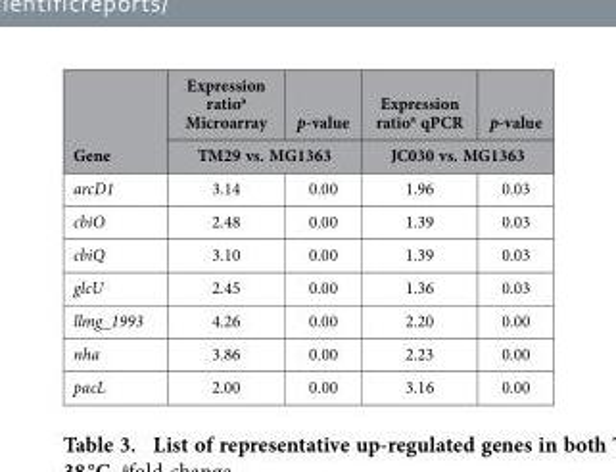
<table><thead><tr><td rowspan="2">Gene</td><td>Expression ratio<sup>a</sup> Microarray</td><td>p-value</td><td>Expression ratio<sup>a</sup> qPCR</td><td>p-value</td></tr><tr><td colspan="2">TM29 vs. MG1363</td><td colspan="2">JC030 vs. MG1363</td></tr></thead><tbody><tr><td>arcD1</td><td>3.14</td><td>0.00</td><td>1.96</td><td>0.03</td></tr><tr><td>cbiO</td><td>2.48</td><td>0.00</td><td>1.39</td><td>0.03</td></tr><tr><td>cbiQ</td><td>3.10</td><td>0.00</td><td>1.39</td><td>0.03</td></tr><tr><td>glcU</td><td>2.45</td><td>0.00</td><td>1.36</td><td>0.03</td></tr><tr><td>llmg_1993</td><td>4.26</td><td>0.00</td><td>2.20</td><td>0.00</td></tr><tr><td>nha</td><td>3.86</td><td>0.00</td><td>2.23</td><td>0.00</td></tr><tr><td>pacL</td><td>2.00</td><td>0.00</td><td>3.16</td><td>0.00</td></tr></tbody></table>